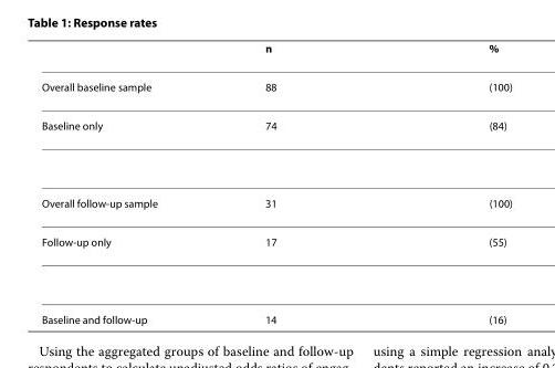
<table><thead><tr><td></td><td>n</td><td>%</td></tr></thead><tbody><tr><td>Overall baseline sample</td><td>88</td><td>(100)</td></tr><tr><td>Baseline only</td><td>74</td><td>(84)</td></tr><tr><td>Overall follow-up sample</td><td>31</td><td>(100)</td></tr><tr><td>Follow-up only</td><td>17</td><td>(55)</td></tr><tr><td>Baseline and follow-up</td><td>14</td><td>(16)</td></tr></tbody></table>